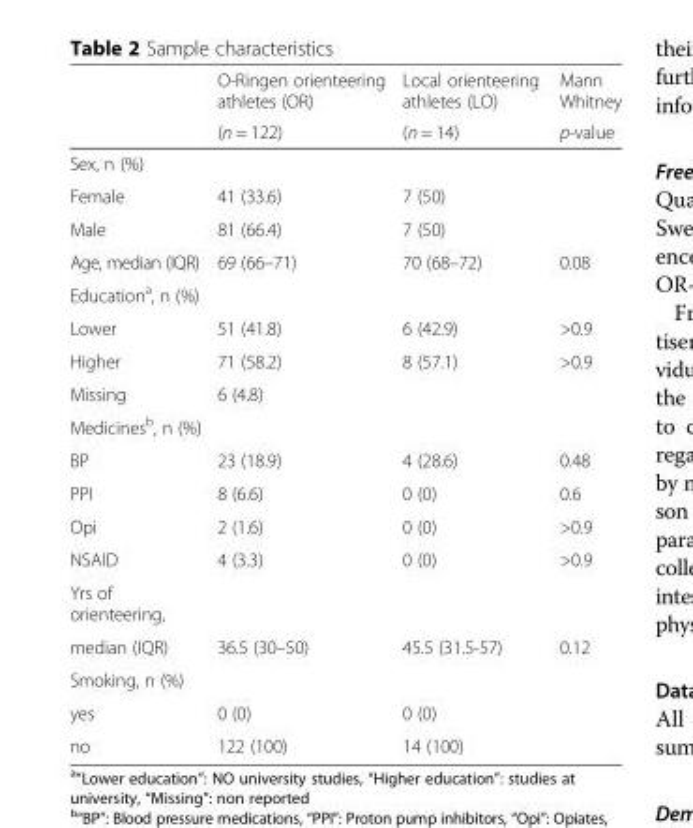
<table><thead><tr><td rowspan="2"></td><td rowspan="2">O-Ringen orienteering athletes (OR) (n = 122)</td><td rowspan="2">Local orienteering athletes (LO) (n = 14)</td><td rowspan="2">Mann Whitney p-value</td></tr><tr></tr></thead><tbody><tr><td colspan="4">Sex, n (%)</td></tr><tr><td>Female</td><td>41 (33.6)</td><td>7 (50)</td><td></td></tr><tr><td>Male</td><td>81 (66.4)</td><td>7 (50)</td><td></td></tr><tr><td>Age, median (IQR)</td><td>69 (66–71)</td><td>70 (68–72)</td><td>0.08</td></tr><tr><td colspan="4">Education<sup>a</sup>, n (%)</td></tr><tr><td>Lower</td><td>51 (41.8)</td><td>6 (42.9)</td><td>&gt;0.9</td></tr><tr><td>Higher</td><td>71 (58.2)</td><td>8 (57.1)</td><td>&gt;0.9</td></tr><tr><td>Missing</td><td>6 (4.8)</td><td></td><td></td></tr><tr><td colspan="4">Medicines<sup>b</sup>, n (%)</td></tr><tr><td>BP</td><td>23 (18.9)</td><td>4 (28.6)</td><td>0.48</td></tr><tr><td>PPI</td><td>8 (6.6)</td><td>0 (0)</td><td>0.6</td></tr><tr><td>Opi</td><td>2 (1.6)</td><td>0 (0)</td><td>&gt;0.9</td></tr><tr><td>NSAID</td><td>4 (3.3)</td><td>0 (0)</td><td>&gt;0.9</td></tr><tr><td colspan="4">Yrs of orienteering,</td></tr><tr><td>median (IQR)</td><td>36.5 (30–50)</td><td>45.5 (31.5-57)</td><td>0.12</td></tr><tr><td colspan="4">Smoking, n (%)</td></tr><tr><td>yes</td><td>0 (0)</td><td>0 (0)</td><td></td></tr><tr><td>no</td><td>122 (100)</td><td>14 (100)</td><td></td></tr></tbody></table>